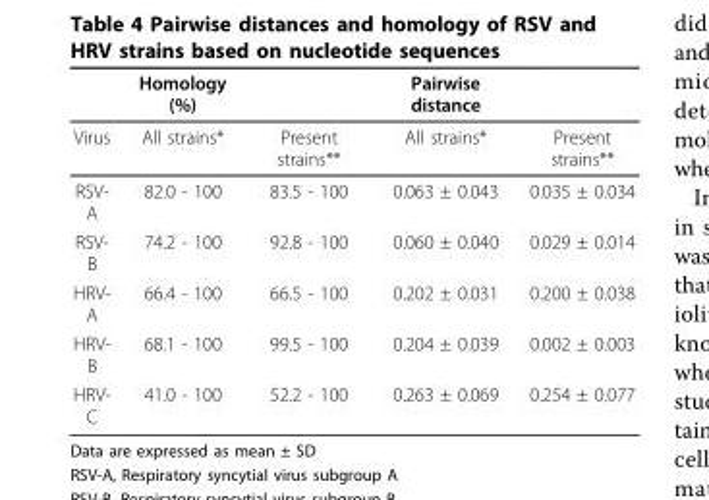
<table><thead><tr><td></td><td>Homology (%)</td><td></td><td>Pairwise distance</td><td></td></tr></thead><tbody><tr><td>Virus</td><td>All strains*</td><td>Present strains**</td><td>All strains*</td><td>Present strains**</td></tr><tr><td>RSV- A</td><td>82.0 - 100</td><td>83.5 - 100</td><td>0.063 ± 0.043</td><td>0.035 ± 0.034</td></tr><tr><td>RSV- B</td><td>74.2 - 100</td><td>92.8 - 100</td><td>0.060 ± 0.040</td><td>0.029 ± 0.014</td></tr><tr><td>HRV- A</td><td>66.4 - 100</td><td>66.5 - 100</td><td>0.202 ± 0.031</td><td>0.200 ± 0.038</td></tr><tr><td>HRV- B</td><td>68.1 - 100</td><td>99.5 - 100</td><td>0.204 ± 0.039</td><td>0.002 ± 0.003</td></tr><tr><td>HRV- C</td><td>41.0 - 100</td><td>52.2 - 100</td><td>0.263 ± 0.069</td><td>0.254 ± 0.077</td></tr></tbody></table>